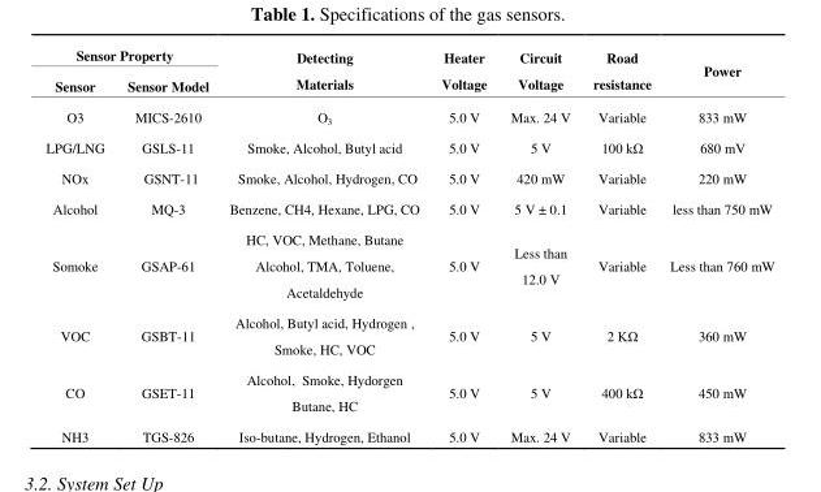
<table><thead><tr><td colspan="2">Sensor Property</td><td rowspan="2">Detecting Materials</td><td rowspan="2">Heater Voltage</td><td rowspan="2">Circuit Voltage</td><td rowspan="2">Road resistance</td><td rowspan="2">Power</td></tr><tr><td>Sensor</td><td>Sensor Model</td></tr></thead><tbody><tr><td>O3</td><td>MICS-2610</td><td>O<sub>3</sub></td><td>5.0 V</td><td>Max. 24 V</td><td>Variable</td><td>833 mW</td></tr><tr><td>LPG/LNG</td><td>GSLS-11</td><td>Smoke, Alcohol, Butyl acid</td><td>5.0 V</td><td>5 V</td><td>100 kΩ</td><td>680 mV</td></tr><tr><td>NOx</td><td>GSNT-11</td><td>Smoke, Alcohol, Hydrogen, CO</td><td>5.0 V</td><td>420 mW</td><td>Variable</td><td>220 mW</td></tr><tr><td>Alcohol</td><td>MQ-3</td><td>Benzene, CH4, Hexane, LPG, CO</td><td>5.0 V</td><td>5 V ± 0.1</td><td>Variable</td><td>less than 750 mW</td></tr><tr><td>Somoke</td><td>GSAP-61</td><td>HC, VOC, Methane, Butane Alcohol, TMA, Toluene, Acetaldehyde</td><td>5.0 V</td><td>Less than 12.0 V</td><td>Variable</td><td>Less than 760 mW</td></tr><tr><td>VOC</td><td>GSBT-11</td><td>Alcohol, Butyl acid, Hydrogen , Smoke, HC, VOC</td><td>5.0 V</td><td>5 V</td><td>2 KΩ</td><td>360 mW</td></tr><tr><td>CO</td><td>GSET-11</td><td>Alcohol, Smoke, Hydorgen Butane, HC</td><td>5.0 V</td><td>5 V</td><td>400 kΩ</td><td>450 mW</td></tr><tr><td>NH3</td><td>TGS-826</td><td>Iso-butane, Hydrogen, Ethanol</td><td>5.0 V</td><td>Max. 24 V</td><td>Variable</td><td>833 mW</td></tr></tbody></table>